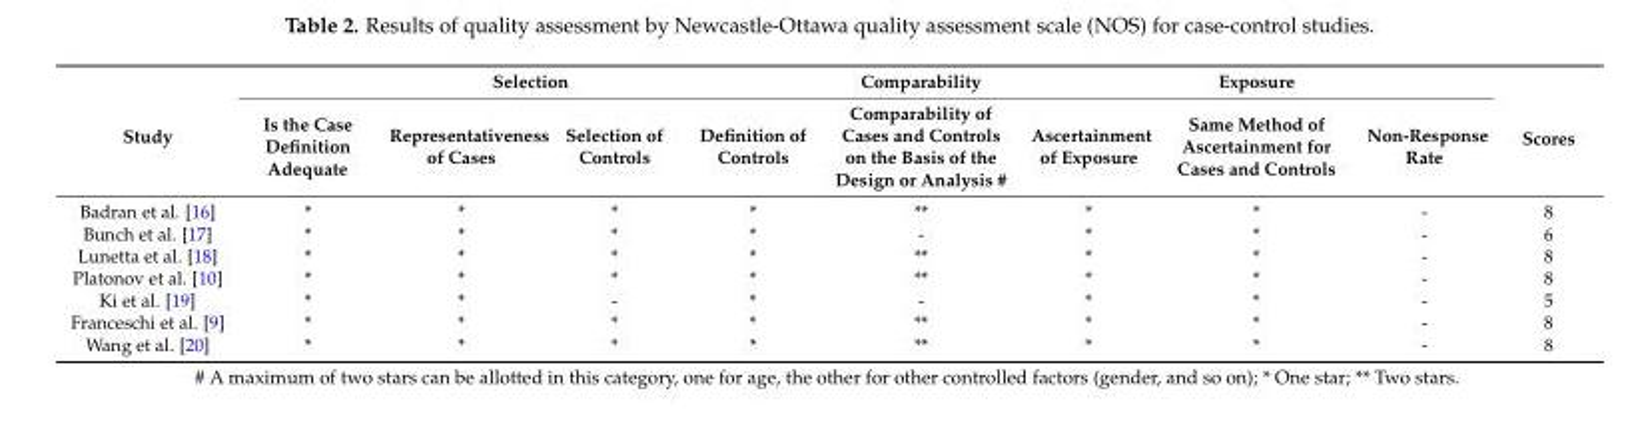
<table><thead><tr><td rowspan="2">Study</td><td colspan="4">Selection</td><td rowspan="2">Comparability Comparability of Cases and Controls on the Basis of the Design or Analysis #</td><td colspan="3">Exposure</td><td rowspan="2">Scores</td></tr><tr><td>Is the Case Definition Adequate</td><td>Representativeness of Cases</td><td>Selection of Controls</td><td>Definition of Controls</td><td>Ascertainment of Exposure</td><td>Same Method of Ascertainment for Cases and Controls</td><td>Non-Response Rate</td></tr></thead><tbody><tr><td>Badran et al. [16]</td><td>*</td><td>*</td><td>*</td><td>*</td><td>**</td><td>*</td><td>*</td><td>-</td><td>8</td></tr><tr><td>Bunch et al. [17]</td><td>*</td><td>*</td><td>*</td><td>*</td><td>-</td><td>*</td><td>*</td><td>-</td><td>6</td></tr><tr><td>Lunetta et al. [18]</td><td>*</td><td>*</td><td>*</td><td>*</td><td>**</td><td>*</td><td>*</td><td>-</td><td>8</td></tr><tr><td>Platonov et al. [10]</td><td>*</td><td>*</td><td>*</td><td>*</td><td>**</td><td>*</td><td>*</td><td>-</td><td>8</td></tr><tr><td>Ki et al. [19]</td><td>*</td><td>*</td><td>-</td><td>*</td><td>-</td><td>*</td><td>*</td><td>-</td><td>5</td></tr><tr><td>Franceschi et al. [9]</td><td>*</td><td>*</td><td>*</td><td>*</td><td>**</td><td>*</td><td>*</td><td>-</td><td>8</td></tr><tr><td>Wang et al. [20]</td><td>*</td><td>*</td><td>*</td><td>*</td><td>**</td><td>*</td><td>*</td><td>-</td><td>8</td></tr></tbody></table>